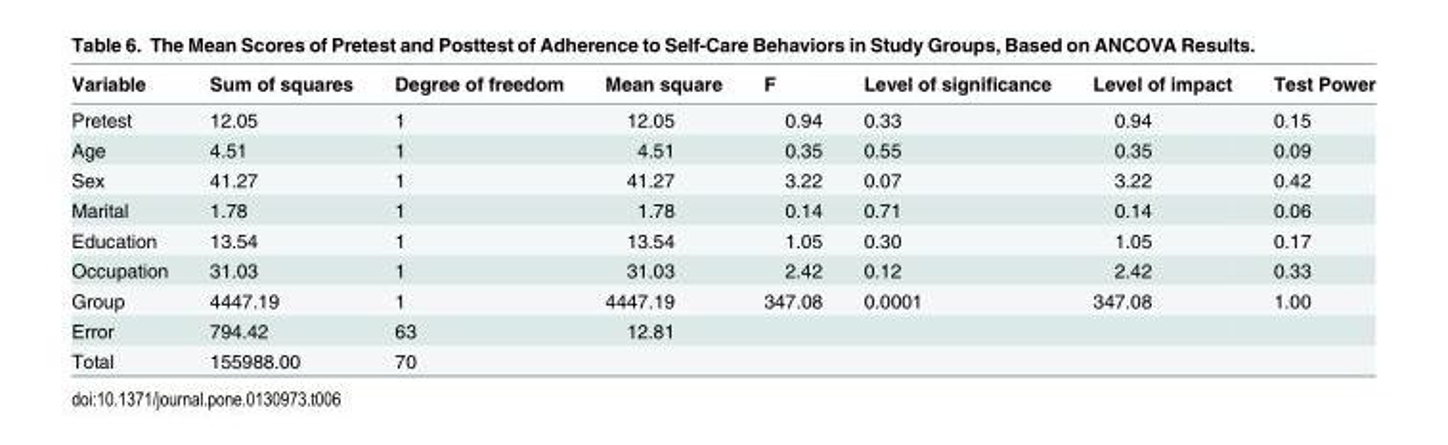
<table><thead><tr><td>Variable</td><td>Sum of squares</td><td>Degree of freedom</td><td>Mean square</td><td>F</td><td>Level of significance</td><td>Level of impact</td><td>Test Power</td></tr></thead><tbody><tr><td>Pretest</td><td>12.05</td><td>1</td><td>12.05</td><td>0.94</td><td>0.33</td><td>0.94</td><td>0.15</td></tr><tr><td>Age</td><td>4.51</td><td>1</td><td>4.51</td><td>0.35</td><td>0.55</td><td>0.35</td><td>0.09</td></tr><tr><td>Sex</td><td>41.27</td><td>1</td><td>41.27</td><td>3.22</td><td>0.07</td><td>3.22</td><td>0.42</td></tr><tr><td>Marital</td><td>1.78</td><td>1</td><td>1.78</td><td>0.14</td><td>0.71</td><td>0.14</td><td>0.06</td></tr><tr><td>Education</td><td>13.54</td><td>1</td><td>13.54</td><td>1.05</td><td>0.30</td><td>1.05</td><td>0.17</td></tr><tr><td>Occupation</td><td>31.03</td><td>1</td><td>31.03</td><td>2.42</td><td>0.12</td><td>2.42</td><td>0.33</td></tr><tr><td>Group</td><td>4447.19</td><td>1</td><td>4447.19</td><td>347.08</td><td>0.0001</td><td>347.08</td><td>1.00</td></tr><tr><td>Error</td><td>794.42</td><td>63</td><td>12.81</td><td></td><td></td><td></td><td></td></tr><tr><td>Total</td><td>155988.00</td><td>70</td><td></td><td></td><td></td><td></td><td></td></tr></tbody></table>